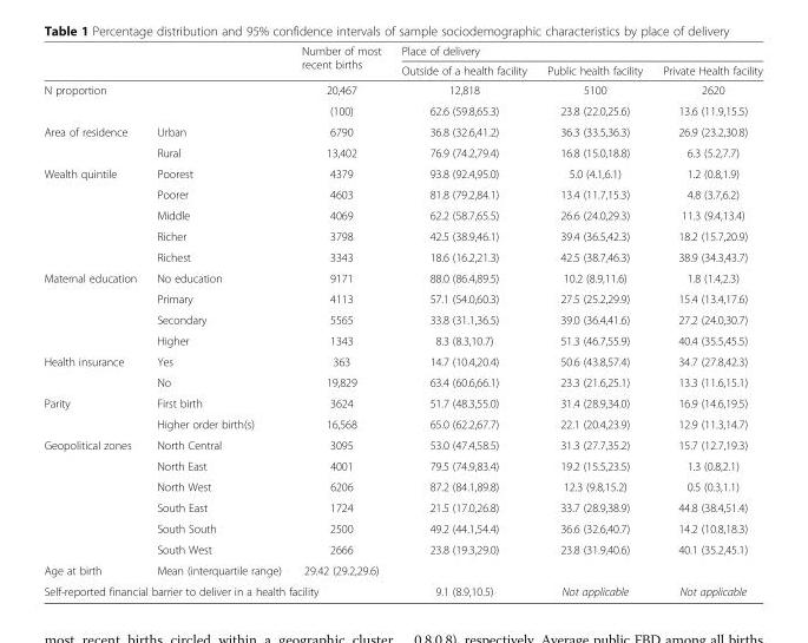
<table><thead><tr><td rowspan="2"></td><td rowspan="2"></td><td rowspan="2">Number of most recent births</td><td colspan="3">Place of delivery</td></tr><tr><td>Outside of a health facility</td><td>Public health facility</td><td>Private Health facility</td></tr></thead><tbody><tr><td rowspan="2" colspan="2">N proportion</td><td>20,467</td><td>12,818</td><td>5100</td><td>2620</td></tr><tr><td>(100)</td><td>62.6 (59.8,65.3)</td><td>23.8 (22.0,25.6)</td><td>13.6 (11.9,15.5)</td></tr><tr><td rowspan="2">Area of residence</td><td>Urban</td><td>6790</td><td>36.8 (32.6,41.2)</td><td>36.3 (33.5,36.3)</td><td>26.9 (23.2,30.8)</td></tr><tr><td>Rural</td><td>13,402</td><td>76.9 (74.2,79.4)</td><td>16.8 (15.0,18.8)</td><td>6.3 (5.2,7.7)</td></tr><tr><td rowspan="5">Wealth quintile</td><td>Poorest</td><td>4379</td><td>93.8 (92.4,95.0)</td><td>5.0 (4.1,6.1)</td><td>1.2 (0.8,1.9)</td></tr><tr><td>Poorer</td><td>4603</td><td>81.8 (79.2,84.1)</td><td>13.4 (11.7,15.3)</td><td>4.8 (3.7,6.2)</td></tr><tr><td>Middle</td><td>4069</td><td>62.2 (58.7,65.5)</td><td>26.6 (24.0,29.3)</td><td>11.3 (9.4,13.4)</td></tr><tr><td>Richer</td><td>3798</td><td>42.5 (38.9,46.1)</td><td>39.4 (36.5,42.3)</td><td>18.2 (15.7,20.9)</td></tr><tr><td>Richest</td><td>3343</td><td>18.6 (16.2,21.3)</td><td>42.5 (38.7,46.3)</td><td>38.9 (34.3,43.7)</td></tr><tr><td rowspan="4">Maternal education</td><td>No education</td><td>9171</td><td>88.0 (86.4,89.5)</td><td>10.2 (8.9,11.6)</td><td>1.8 (1.4,2.3)</td></tr><tr><td>Primary</td><td>4113</td><td>57.1 (54.0,60.3)</td><td>27.5 (25.2,29.9)</td><td>15.4 (13.4,17.6)</td></tr><tr><td>Secondary</td><td>5565</td><td>33.8 (31.1,36.5)</td><td>39.0 (36.4,41.6)</td><td>27.2 (24.0,30.7)</td></tr><tr><td>Higher</td><td>1343</td><td>8.3 (8.3,10.7)</td><td>51.3 (46.7,55.9)</td><td>40.4 (35.5,45.5)</td></tr><tr><td rowspan="2">Health insurance</td><td>Yes</td><td>363</td><td>14.7 (10.4,20.4)</td><td>50.6 (43.8,57.4)</td><td>34.7 (27.8,42.3)</td></tr><tr><td>No</td><td>19,829</td><td>63.4 (60.6,66.1)</td><td>23.3 (21.6,25.1)</td><td>13.3 (11.6,15.1)</td></tr><tr><td rowspan="2">Parity</td><td>First birth</td><td>3624</td><td>51.7 (48.3,55.0)</td><td>31.4 (28.9,34.0)</td><td>16.9 (14.6,19.5)</td></tr><tr><td>Higher order birth(s)</td><td>16,568</td><td>65.0 (62.2,67.7)</td><td>22.1 (20.4,23.9)</td><td>12.9 (11.3,14.7)</td></tr><tr><td rowspan="6">Geopolitical zones</td><td>North Central</td><td>3095</td><td>53.0 (47.4,58.5)</td><td>31.3 (27.7,35.2)</td><td>15.7 (12.7,19.3)</td></tr><tr><td>North East</td><td>4001</td><td>79.5 (74.9,83.4)</td><td>19.2 (15.5,23.5)</td><td>1.3 (0.8,2.1)</td></tr><tr><td>North West</td><td>6206</td><td>87.2 (84.1,89.8)</td><td>12.3 (9.8,15.2)</td><td>0.5 (0.3,1.1)</td></tr><tr><td>South East</td><td>1724</td><td>21.5 (17.0,26.8)</td><td>33.7 (28.9,38.9)</td><td>44.8 (38.4,51.4)</td></tr><tr><td>South South</td><td>2500</td><td>49.2 (44.1,54.4)</td><td>36.6 (32.6,40.7)</td><td>14.2 (10.8,18.3)</td></tr><tr><td>South West</td><td>2666</td><td>23.8 (19.3,29.0)</td><td>23.8 (31.9,40.6)</td><td>40.1 (35.2,45.1)</td></tr><tr><td>Age at birth</td><td>Mean (interquartile range)</td><td>29.42 (29.2,29.6)</td><td></td><td></td><td></td></tr><tr><td colspan="3">Self-reported financial barrier to deliver in a health facility</td><td>9.1 (8.9,10.5)</td><td>Not applicable</td><td>Not applicable</td></tr></tbody></table>